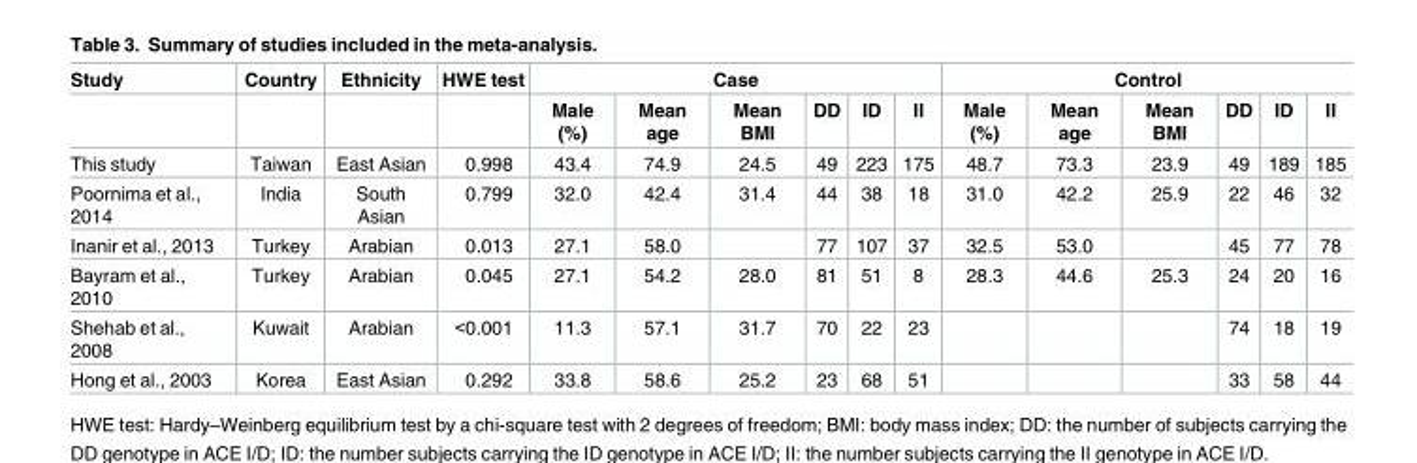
<table><thead><tr><td rowspan="2">Study</td><td rowspan="2">Country</td><td rowspan="2">Ethnicity</td><td rowspan="2">HWE test</td><td colspan="6">Case</td><td colspan="6">Control</td></tr><tr><td>Male (%)</td><td>Mean age</td><td>Mean BMI</td><td>DD</td><td>ID</td><td>II</td><td>Male (%)</td><td>Mean age</td><td>Mean BMI</td><td>DD</td><td>ID</td><td>II</td></tr></thead><tbody><tr><td>This study</td><td>Taiwan</td><td>East Asian</td><td>0.998</td><td>43.4</td><td>74.9</td><td>24.5</td><td>49</td><td>223</td><td>175</td><td>48.7</td><td>73.3</td><td>23.9</td><td>49</td><td>189</td><td>185</td></tr><tr><td>Poornima et al., 2014</td><td>India</td><td>South Asian</td><td>0.799</td><td>32.0</td><td>42.4</td><td>31.4</td><td>44</td><td>38</td><td>18</td><td>31.0</td><td>42.2</td><td>25.9</td><td>22</td><td>46</td><td>32</td></tr><tr><td>Inanir et al., 2013</td><td>Turkey</td><td>Arabian</td><td>0.013</td><td>27.1</td><td>58.0</td><td></td><td>77</td><td>107</td><td>37</td><td>32.5</td><td>53.0</td><td></td><td>45</td><td>77</td><td>78</td></tr><tr><td>Bayram et al., 2010</td><td>Turkey</td><td>Arabian</td><td>0.045</td><td>27.1</td><td>54.2</td><td>28.0</td><td>81</td><td>51</td><td>8</td><td>28.3</td><td>44.6</td><td>25.3</td><td>24</td><td>20</td><td>16</td></tr><tr><td>Shehab et al., 2008</td><td>Kuwait</td><td>Arabian</td><td>&lt;0.001</td><td>11.3</td><td>57.1</td><td>31.7</td><td>70</td><td>22</td><td>23</td><td></td><td></td><td></td><td>74</td><td>18</td><td>19</td></tr><tr><td>Hong et al., 2003</td><td>Korea</td><td>East Asian</td><td>0.292</td><td>33.8</td><td>58.6</td><td>25.2</td><td>23</td><td>68</td><td>51</td><td></td><td></td><td></td><td>33</td><td>58</td><td>44</td></tr></tbody></table>